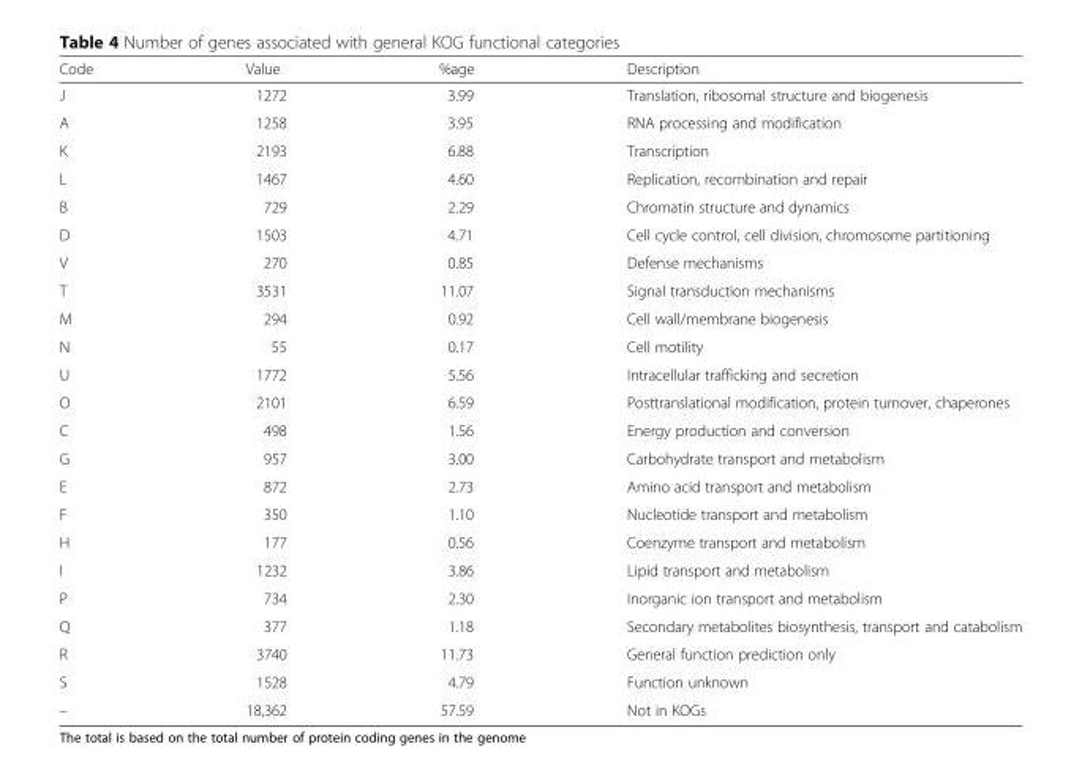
<table><thead><tr><td>Code</td><td>Value</td><td>%age</td><td>Description</td></tr></thead><tbody><tr><td>J</td><td>1272</td><td>3.99</td><td>Translation, ribosomal structure and biogenesis</td></tr><tr><td>A</td><td>1258</td><td>3.95</td><td>RNA processing and modification</td></tr><tr><td>K</td><td>2193</td><td>6.88</td><td>Transcription</td></tr><tr><td>L</td><td>1467</td><td>4.60</td><td>Replication, recombination and repair</td></tr><tr><td>B</td><td>729</td><td>2.29</td><td>Chromatin structure and dynamics</td></tr><tr><td>D</td><td>1503</td><td>4.71</td><td>Cell cycle control, cell division, chromosome partitioning</td></tr><tr><td>V</td><td>270</td><td>0.85</td><td>Defense mechanisms</td></tr><tr><td>T</td><td>3531</td><td>11.07</td><td>Signal transduction mechanisms</td></tr><tr><td>M</td><td>294</td><td>0.92</td><td>Cell wall/membrane biogenesis</td></tr><tr><td>N</td><td>55</td><td>0.17</td><td>Cell motility</td></tr><tr><td>U</td><td>1772</td><td>5.56</td><td>Intracellular trafficking and secretion</td></tr><tr><td>O</td><td>2101</td><td>6.59</td><td>Posttranslational modification, protein turnover, chaperones</td></tr><tr><td>C</td><td>498</td><td>1.56</td><td>Energy production and conversion</td></tr><tr><td>G</td><td>957</td><td>3.00</td><td>Carbohydrate transport and metabolism</td></tr><tr><td>E</td><td>872</td><td>2.73</td><td>Amino acid transport and metabolism</td></tr><tr><td>F</td><td>350</td><td>1.10</td><td>Nucleotide transport and metabolism</td></tr><tr><td>H</td><td>177</td><td>0.56</td><td>Coenzyme transport and metabolism</td></tr><tr><td>I</td><td>1232</td><td>3.86</td><td>Lipid transport and metabolism</td></tr><tr><td>P</td><td>734</td><td>2.30</td><td>Inorganic ion transport and metabolism</td></tr><tr><td>Q</td><td>377</td><td>1.18</td><td>Secondary metabolites biosynthesis, transport and catabolism</td></tr><tr><td>R</td><td>3740</td><td>11.73</td><td>General function prediction only</td></tr><tr><td>S</td><td>1528</td><td>4.79</td><td>Function unknown</td></tr><tr><td>–</td><td>18,362</td><td>57.59</td><td>Not in KOGs</td></tr></tbody></table>